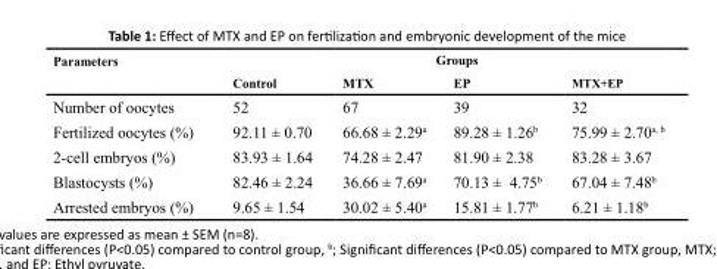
<table><thead><tr><td rowspan="2">Parameters</td><td colspan="4">Groups</td></tr><tr><td>Control</td><td>MTX</td><td>EP</td><td>MTX+EP</td></tr></thead><tbody><tr><td>Number of oocytes</td><td>52</td><td>67</td><td>39</td><td>32</td></tr><tr><td>Fertilized oocytes (%)</td><td>92.11 ± 0.70</td><td>66.68 ± 2.29<sup>a</sup></td><td>89.28 ± 1.26<sup>b</sup></td><td>75.99 ± 2.70<sup>a, b</sup></td></tr><tr><td>2-cell embryos (%)</td><td>83.93 ± 1.64</td><td>74.28 ± 2.47</td><td>81.90 ± 2.38</td><td>83.28 ± 3.67</td></tr><tr><td>Blastocysts (%)</td><td>82.46 ± 2.24</td><td>36.66 ± 7.69<sup>a</sup></td><td>70.13 ± 4.75<sup>b</sup></td><td>67.04 ± 7.48<sup>b</sup></td></tr><tr><td>Arrested embryos (%)</td><td>9.65 ± 1.54</td><td>30.02 ± 5.40<sup>a</sup></td><td>15.81 ± 1.77<sup>b</sup></td><td>6.21 ± 1.18<sup>b</sup></td></tr></tbody></table>